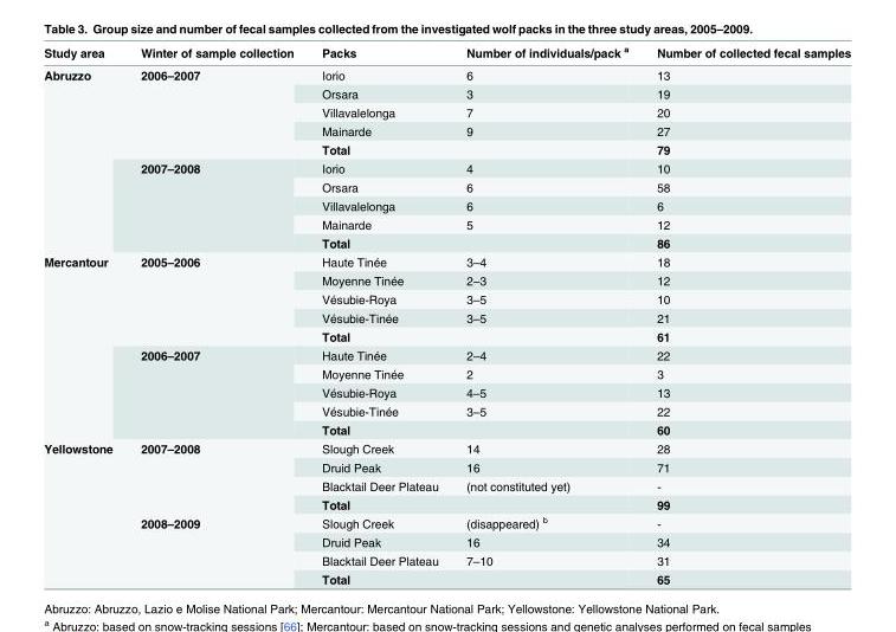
<table><thead><tr><td>Study area</td><td>Winter of sample collection</td><td>Packs</td><td>Number of individuals/pack <sup>a</sup></td><td>Number of collected fecal samples</td></tr></thead><tbody><tr><td rowspan="10">Abruzzo</td><td rowspan="5">2006–2007</td><td>Iorio</td><td>6</td><td>13</td></tr><tr><td>Orsara</td><td>3</td><td>19</td></tr><tr><td>Villavalelonga</td><td>7</td><td>20</td></tr><tr><td>Mainarde</td><td>9</td><td>27</td></tr><tr><td>Total</td><td></td><td>79</td></tr><tr><td rowspan="5">2007–2008</td><td>Iorio</td><td>4</td><td>10</td></tr><tr><td>Orsara</td><td>6</td><td>58</td></tr><tr><td>Villavalelonga</td><td>6</td><td>6</td></tr><tr><td>Mainarde</td><td>5</td><td>12</td></tr><tr><td>Total</td><td></td><td>86</td></tr><tr><td rowspan="10">Mercantour</td><td rowspan="5">2005–2006</td><td>Haute Tinée</td><td>3–4</td><td>18</td></tr><tr><td>Moyenne Tinée</td><td>2–3</td><td>12</td></tr><tr><td>Vésubie-Roya</td><td>3–5</td><td>10</td></tr><tr><td>Vésubie-Tinée</td><td>3–5</td><td>21</td></tr><tr><td>Total</td><td></td><td>61</td></tr><tr><td rowspan="5">2006–2007</td><td>Haute Tinée</td><td>2–4</td><td>22</td></tr><tr><td>Moyenne Tinée</td><td>2</td><td>3</td></tr><tr><td>Vésubie-Roya</td><td>4–5</td><td>13</td></tr><tr><td>Vésubie-Tinée</td><td>3–5</td><td>22</td></tr><tr><td>Total</td><td></td><td>60</td></tr><tr><td rowspan="8">Yellowstone</td><td rowspan="4">2007–2008</td><td>Slough Creek</td><td>14</td><td>28</td></tr><tr><td>Druid Peak</td><td>16</td><td>71</td></tr><tr><td>Blacktail Deer Plateau</td><td>(not constituted yet)</td><td>-</td></tr><tr><td>Total</td><td></td><td>99</td></tr><tr><td rowspan="4">2008–2009</td><td>Slough Creek</td><td>(disappeared) <sup>b</sup></td><td>-</td></tr><tr><td>Druid Peak</td><td>16</td><td>34</td></tr><tr><td>Blacktail Deer Plateau</td><td>7–10</td><td>31</td></tr><tr><td>Total</td><td></td><td>65</td></tr></tbody></table>